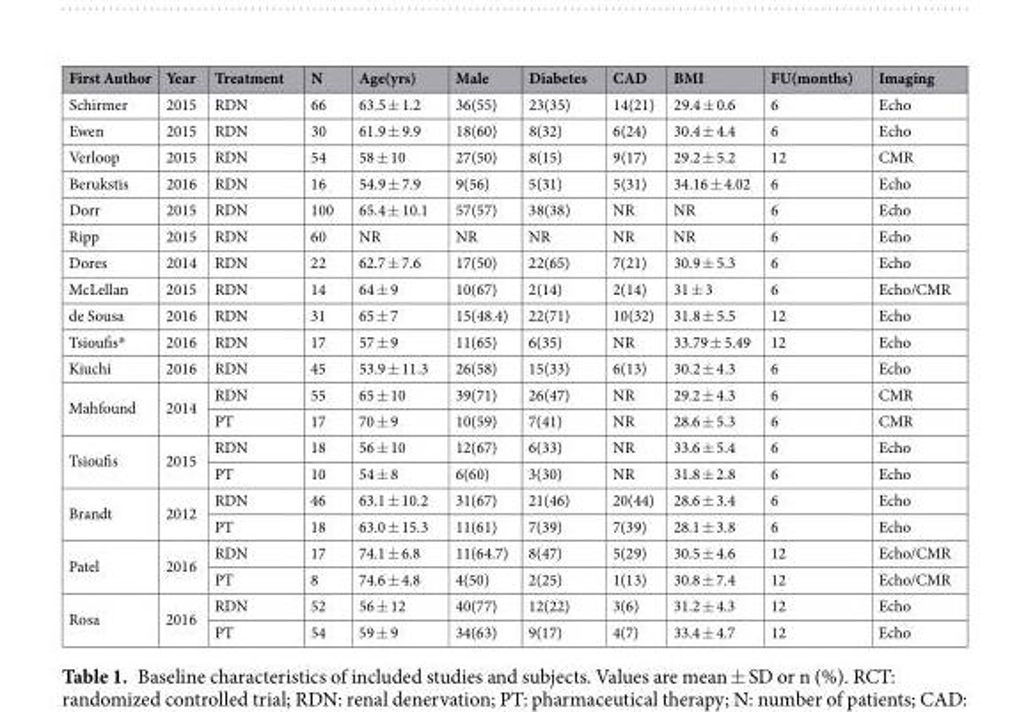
<table><thead><tr><td>First Author</td><td>Year</td><td>Treatment</td><td>N</td><td>Age(yrs)</td><td>Male</td><td>Diabetes</td><td>CAD</td><td>BMI</td><td>FU(months)</td><td>Imaging</td></tr></thead><tbody><tr><td>Schirmer</td><td>2015</td><td>RDN</td><td>66</td><td>63.5 ± 1.2</td><td>36(55)</td><td>23(35)</td><td>14(21)</td><td>29.4 ± 0.6</td><td>6</td><td>Echo</td></tr><tr><td>Ewen</td><td>2015</td><td>RDN</td><td>30</td><td>61.9 ± 9.9</td><td>18(60)</td><td>8(32)</td><td>6(24)</td><td>30.4 ± 4.4</td><td>6</td><td>Echo</td></tr><tr><td>Verloop</td><td>2015</td><td>RDN</td><td>54</td><td>58 ± 10</td><td>27(50)</td><td>8(15)</td><td>9(17)</td><td>29.2 ± 5.2</td><td>12</td><td>CMR</td></tr><tr><td>Berukstis</td><td>2016</td><td>RDN</td><td>16</td><td>54.9 ± 7.9</td><td>9(56)</td><td>5(31)</td><td>5(31)</td><td>34.16 ± 4.02</td><td>6</td><td>Echo</td></tr><tr><td>Dorr</td><td>2015</td><td>RDN</td><td>100</td><td>65.4 ± 10.1</td><td>57(57)</td><td>38(38)</td><td>NR</td><td>NR</td><td>6</td><td>Echo</td></tr><tr><td>Ripp</td><td>2015</td><td>RDN</td><td>60</td><td>NR</td><td>NR</td><td>NR</td><td>NR</td><td>NR</td><td>6</td><td>Echo</td></tr><tr><td>Dores</td><td>2014</td><td>RDN</td><td>22</td><td>62.7 ± 7.6</td><td>17(50)</td><td>22(65)</td><td>7(21)</td><td>30.9 ± 5.3</td><td>6</td><td>Echo</td></tr><tr><td>McLellan</td><td>2015</td><td>RDN</td><td>14</td><td>64 ± 9</td><td>10(67)</td><td>2(14)</td><td>2(14)</td><td>31 ± 3</td><td>6</td><td>Echo/CMR</td></tr><tr><td>de Sousa</td><td>2016</td><td>RDN</td><td>31</td><td>65 ± 7</td><td>15(48.4)</td><td>22(71)</td><td>10(32)</td><td>31.8 ± 5.5</td><td>12</td><td>Echo</td></tr><tr><td>Tsioufis*</td><td>2016</td><td>RDN</td><td>17</td><td>57 ± 9</td><td>11(65)</td><td>6(35)</td><td>NR</td><td>33.79 ± 5.49</td><td>12</td><td>Echo</td></tr><tr><td>Kiuchi</td><td>2016</td><td>RDN</td><td>45</td><td>53.9 ± 11.3</td><td>26(58)</td><td>15(33)</td><td>6(13)</td><td>30.2 ± 4.3</td><td>6</td><td>Echo</td></tr><tr><td rowspan="2">Mahfound</td><td rowspan="2">2014</td><td>RDN</td><td>55</td><td>65 ± 10</td><td>39(71)</td><td>26(47)</td><td>NR</td><td>29.2 ± 4.3</td><td>6</td><td>CMR</td></tr><tr><td>PT</td><td>17</td><td>70 ± 9</td><td>10(59)</td><td>7(41)</td><td>NR</td><td>28.6 ± 5.3</td><td>6</td><td>CMR</td></tr><tr><td rowspan="2">Tsioufis</td><td rowspan="2">2015</td><td>RDN</td><td>18</td><td>56 ± 10</td><td>12(67)</td><td>6(33)</td><td>NR</td><td>33.6 ± 5.4</td><td>6</td><td>Echo</td></tr><tr><td>PT</td><td>10</td><td>54 ± 8</td><td>6(60)</td><td>3(30)</td><td>NR</td><td>31.8 ± 2.8</td><td>6</td><td>Echo</td></tr><tr><td rowspan="2">Brandt</td><td rowspan="2">2012</td><td>RDN</td><td>46</td><td>63.1 ± 10.2</td><td>31(67)</td><td>21(46)</td><td>20(44)</td><td>28.6 ± 3.4</td><td>6</td><td>Echo</td></tr><tr><td>PT</td><td>18</td><td>63.0 ± 15.3</td><td>11(61)</td><td>7(39)</td><td>7(39)</td><td>28.1 ± 3.8</td><td>6</td><td>Echo</td></tr><tr><td rowspan="2">Patel</td><td rowspan="2">2016</td><td>RDN</td><td>17</td><td>74.1 ± 6.8</td><td>11(64.7)</td><td>8(47)</td><td>5(29)</td><td>30.5 ± 4.6</td><td>12</td><td>Echo/CMR</td></tr><tr><td>PT</td><td>8</td><td>74.6 ± 4.8</td><td>4(50)</td><td>2(25)</td><td>1(13)</td><td>30.8 ± 7.4</td><td>12</td><td>Echo/CMR</td></tr><tr><td rowspan="2">Rosa</td><td rowspan="2">2016</td><td>RDN</td><td>52</td><td>56 ± 12</td><td>40(77)</td><td>12(22)</td><td>3(6)</td><td>31.2 ± 4.3</td><td>12</td><td>Echo</td></tr><tr><td>PT</td><td>54</td><td>59 ± 9</td><td>34(63)</td><td>9(17)</td><td>4(7)</td><td>33.4 ± 4.7</td><td>12</td><td>Echo</td></tr></tbody></table>